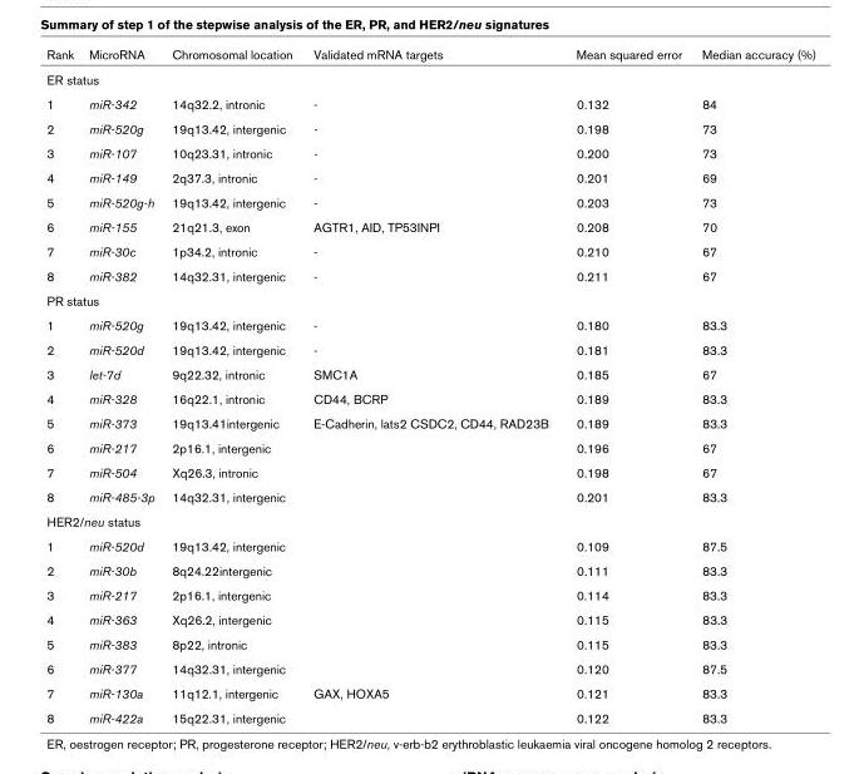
<table><thead><tr><td>Rank</td><td>MicroRNA</td><td>Chromosomal location</td><td>Validated mRNA targets</td><td>Mean squared error</td><td>Median accuracy (%)</td></tr></thead><tbody><tr><td colspan="6">ER status</td></tr><tr><td>1</td><td>miR-342</td><td>14q32.2, intronic</td><td>-</td><td>0.132</td><td>84</td></tr><tr><td>2</td><td>miR-520g</td><td>19q13.42, intergenic</td><td>-</td><td>0.198</td><td>73</td></tr><tr><td>3</td><td>miR-107</td><td>10q23.31, intronic</td><td>-</td><td>0.200</td><td>73</td></tr><tr><td>4</td><td>miR-149</td><td>2q37.3, intronic</td><td>-</td><td>0.201</td><td>69</td></tr><tr><td>5</td><td>miR-520g-h</td><td>19q13.42, intergenic</td><td>-</td><td>0.203</td><td>73</td></tr><tr><td>6</td><td>miR-155</td><td>21q21.3, exon</td><td>AGTR1, AID, TP53INPI</td><td>0.208</td><td>70</td></tr><tr><td>7</td><td>miR-30c</td><td>1p34.2, intronic</td><td>-</td><td>0.210</td><td>67</td></tr><tr><td>8</td><td>miR-382</td><td>14q32.31, intergenic</td><td>-</td><td>0.211</td><td>67</td></tr><tr><td colspan="6">PR status</td></tr><tr><td>1</td><td>miR-520g</td><td>19q13.42, intergenic</td><td>-</td><td>0.180</td><td>83.3</td></tr><tr><td>2</td><td>miR-520d</td><td>19q13.42, intergenic</td><td>-</td><td>0.181</td><td>83.3</td></tr><tr><td>3</td><td>let-7d</td><td>9q22.32, intronic</td><td>SMC1A</td><td>0.185</td><td>67</td></tr><tr><td>4</td><td>miR-328</td><td>16q22.1, intronic</td><td>CD44, BCRP</td><td>0.189</td><td>83.3</td></tr><tr><td>5</td><td>miR-373</td><td>19q13.41intergenic</td><td>E-Cadherin, lats2 CSDC2, CD44, RAD23B</td><td>0.189</td><td>83.3</td></tr><tr><td>6</td><td>miR-217</td><td>2p16.1, intergenic</td><td></td><td>0.196</td><td>67</td></tr><tr><td>7</td><td>miR-504</td><td>Xq26.3, intronic</td><td></td><td>0.198</td><td>67</td></tr><tr><td>8</td><td>miR-485-3p</td><td>14q32.31, intergenic</td><td></td><td>0.201</td><td>83.3</td></tr><tr><td colspan="6">HER2/neu status</td></tr><tr><td>1</td><td>miR-520d</td><td>19q13.42, intergenic</td><td></td><td>0.109</td><td>87.5</td></tr><tr><td>2</td><td>miR-30b</td><td>8q24.22intergenic</td><td></td><td>0.111</td><td>83.3</td></tr><tr><td>3</td><td>miR-217</td><td>2p16.1, intergenic</td><td></td><td>0.114</td><td>83.3</td></tr><tr><td>4</td><td>miR-363</td><td>Xq26.2, intergenic</td><td></td><td>0.115</td><td>83.3</td></tr><tr><td>5</td><td>miR-383</td><td>8p22, intronic</td><td></td><td>0.115</td><td>83.3</td></tr><tr><td>6</td><td>miR-377</td><td>14q32.31, intergenic</td><td></td><td>0.120</td><td>87.5</td></tr><tr><td>7</td><td>miR-130a</td><td>11q12.1, intergenic</td><td>GAX, HOXA5</td><td>0.121</td><td>83.3</td></tr><tr><td>8</td><td>miR-422a</td><td>15q22.31, intergenic</td><td></td><td>0.122</td><td>83.3</td></tr></tbody></table>